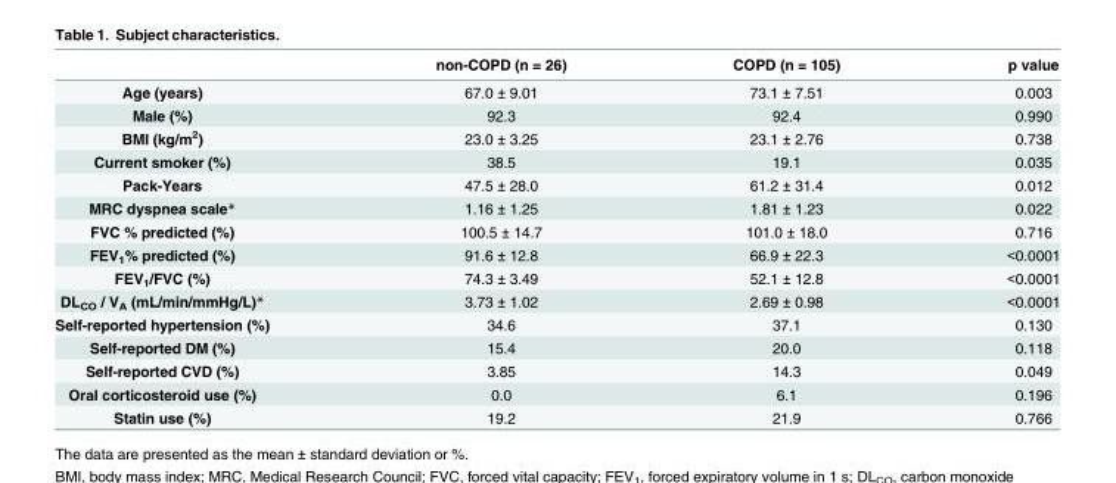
<table><thead><tr><td></td><td>non-COPD (n = 26)</td><td>COPD (n = 105)</td><td>p value</td></tr></thead><tbody><tr><td>Age (years)</td><td>67.0 ± 9.01</td><td>73.1 ± 7.51</td><td>0.003</td></tr><tr><td>Male (%)</td><td>92.3</td><td>92.4</td><td>0.990</td></tr><tr><td>BMI (kg/m<sup>2</sup>)</td><td>23.0 ± 3.25</td><td>23.1 ± 2.76</td><td>0.738</td></tr><tr><td>Current smoker (%)</td><td>38.5</td><td>19.1</td><td>0.035</td></tr><tr><td>Pack-Years</td><td>47.5 ± 28.0</td><td>61.2 ± 31.4</td><td>0.012</td></tr><tr><td>MRC dyspnea scale*</td><td>1.16 ± 1.25</td><td>1.81 ± 1.23</td><td>0.022</td></tr><tr><td>FVC % predicted (%)</td><td>100.5 ± 14.7</td><td>101.0 ± 18.0</td><td>0.716</td></tr><tr><td>FEV<sub>1</sub>% predicted (%)</td><td>91.6 ± 12.8</td><td>66.9 ± 22.3</td><td>&lt;0.0001</td></tr><tr><td>FEV<sub>1</sub>/FVC (%)</td><td>74.3 ± 3.49</td><td>52.1 ± 12.8</td><td>&lt;0.0001</td></tr><tr><td>DL<sub>CO</sub> / V<sub>A</sub> (mL/min/mmHg/L)*</td><td>3.73 ± 1.02</td><td>2.69 ± 0.98</td><td>&lt;0.0001</td></tr><tr><td>Self-reported hypertension (%)</td><td>34.6</td><td>37.1</td><td>0.130</td></tr><tr><td>Self-reported DM (%)</td><td>15.4</td><td>20.0</td><td>0.118</td></tr><tr><td>Self-reported CVD (%)</td><td>3.85</td><td>14.3</td><td>0.049</td></tr><tr><td>Oral corticosteroid use (%)</td><td>0.0</td><td>6.1</td><td>0.196</td></tr><tr><td>Statin use (%)</td><td>19.2</td><td>21.9</td><td>0.766</td></tr></tbody></table>